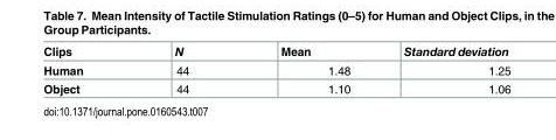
<table><thead><tr><td>Clips</td><td>N</td><td>Mean</td><td>Standard deviation</td></tr></thead><tbody><tr><td>Human</td><td>44</td><td>1.48</td><td>1.25</td></tr><tr><td>Object</td><td>44</td><td>1.10</td><td>1.06</td></tr></tbody></table>